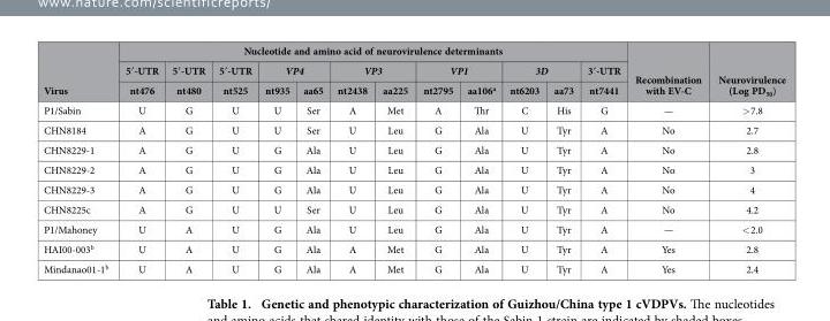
<table><thead><tr><td rowspan="3">Virus</td><td colspan="12">Nucleotide and amino acid of neurovirulence determinants</td><td rowspan="3">Recombination with EV-C</td><td rowspan="3">Neurovirulence (Log PD<sub>50</sub>)</td></tr><tr><td rowspan="2">5′-UTR nt476</td><td rowspan="2">5′-UTR nt480</td><td rowspan="2">5′-UTR nt525</td><td colspan="2">VP4</td><td colspan="2">VP3</td><td colspan="2">VP1</td><td colspan="2">3D</td><td rowspan="2">3′-UTR nt7441</td></tr><tr><td>nt935</td><td>aa65</td><td>nt2438</td><td>aa225</td><td>nt2795</td><td>aa106<sup>a</sup></td><td>nt6203</td><td>aa73</td></tr></thead><tbody><tr><td>P1/Sabin</td><td>U</td><td>G</td><td>U</td><td>U</td><td>Ser</td><td>A</td><td>Met</td><td>A</td><td>Thr</td><td>C</td><td>His</td><td>G</td><td>—</td><td>&gt; 7.8</td></tr><tr><td>CHN8184</td><td>A</td><td>G</td><td>U</td><td>U</td><td>Ser</td><td>U</td><td>Leu</td><td>G</td><td>Ala</td><td>U</td><td>Tyr</td><td>A</td><td>No</td><td>2.7</td></tr><tr><td>CHN8229-1</td><td>A</td><td>G</td><td>U</td><td>G</td><td>Ala</td><td>U</td><td>Leu</td><td>G</td><td>Ala</td><td>U</td><td>Tyr</td><td>A</td><td>No</td><td>2.8</td></tr><tr><td>CHN8229-2</td><td>A</td><td>G</td><td>U</td><td>G</td><td>Ala</td><td>U</td><td>Leu</td><td>G</td><td>Ala</td><td>U</td><td>Tyr</td><td>A</td><td>No</td><td>3</td></tr><tr><td>CHN8229-3</td><td>A</td><td>G</td><td>U</td><td>G</td><td>Ala</td><td>U</td><td>Leu</td><td>G</td><td>Ala</td><td>U</td><td>Tyr</td><td>A</td><td>No</td><td>4</td></tr><tr><td>CHN8225c</td><td>A</td><td>G</td><td>U</td><td>U</td><td>Ser</td><td>U</td><td>Leu</td><td>G</td><td>Ala</td><td>U</td><td>Tyr</td><td>A</td><td>No</td><td>4.2</td></tr><tr><td>P1/Mahoney</td><td>U</td><td>A</td><td>U</td><td>G</td><td>Ala</td><td>U</td><td>Leu</td><td>G</td><td>Ala</td><td>U</td><td>Tyr</td><td>A</td><td>—</td><td>&lt; 2.0</td></tr><tr><td>HAI00-003<sup>b</sup></td><td>U</td><td>A</td><td>U</td><td>G</td><td>Ala</td><td>A</td><td>Met</td><td>G</td><td>Ala</td><td>U</td><td>Tyr</td><td>A</td><td>Yes</td><td>2.8</td></tr><tr><td>Mindanao01-1<sup>b</sup></td><td>U</td><td>A</td><td>U</td><td>G</td><td>Ala</td><td>A</td><td>Met</td><td>G</td><td>Ala</td><td>U</td><td>Tyr</td><td>A</td><td>Yes</td><td>2.4</td></tr></tbody></table>